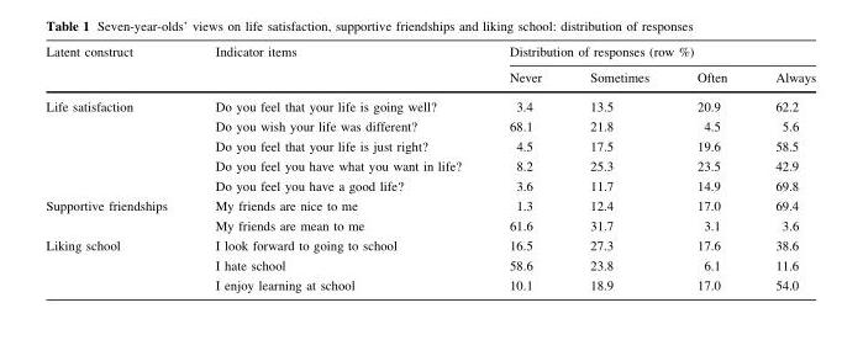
<table><thead><tr><td rowspan="2">Latent construct</td><td rowspan="2">Indicator items</td><td colspan="4">Distribution of responses (row %)</td></tr><tr><td>Never</td><td>Sometimes</td><td>Often</td><td>Always</td></tr></thead><tbody><tr><td rowspan="5">Life satisfaction</td><td>Do you feel that your life is going well?</td><td>3.4</td><td>13.5</td><td>20.9</td><td>62.2</td></tr><tr><td>Do you wish your life was different?</td><td>68.1</td><td>21.8</td><td>4.5</td><td>5.6</td></tr><tr><td>Do you feel that your life is just right?</td><td>4.5</td><td>17.5</td><td>19.6</td><td>58.5</td></tr><tr><td>Do you feel you have what you want in life?</td><td>8.2</td><td>25.3</td><td>23.5</td><td>42.9</td></tr><tr><td>Do you feel you have a good life?</td><td>3.6</td><td>11.7</td><td>14.9</td><td>69.8</td></tr><tr><td rowspan="2">Supportive friendships</td><td>My friends are nice to me</td><td>1.3</td><td>12.4</td><td>17.0</td><td>69.4</td></tr><tr><td>My friends are mean to me</td><td>61.6</td><td>31.7</td><td>3.1</td><td>3.6</td></tr><tr><td rowspan="3">Liking school</td><td>I look forward to going to school</td><td>16.5</td><td>27.3</td><td>17.6</td><td>38.6</td></tr><tr><td>I hate school</td><td>58.6</td><td>23.8</td><td>6.1</td><td>11.6</td></tr><tr><td>I enjoy learning at school</td><td>10.1</td><td>18.9</td><td>17.0</td><td>54.0</td></tr></tbody></table>